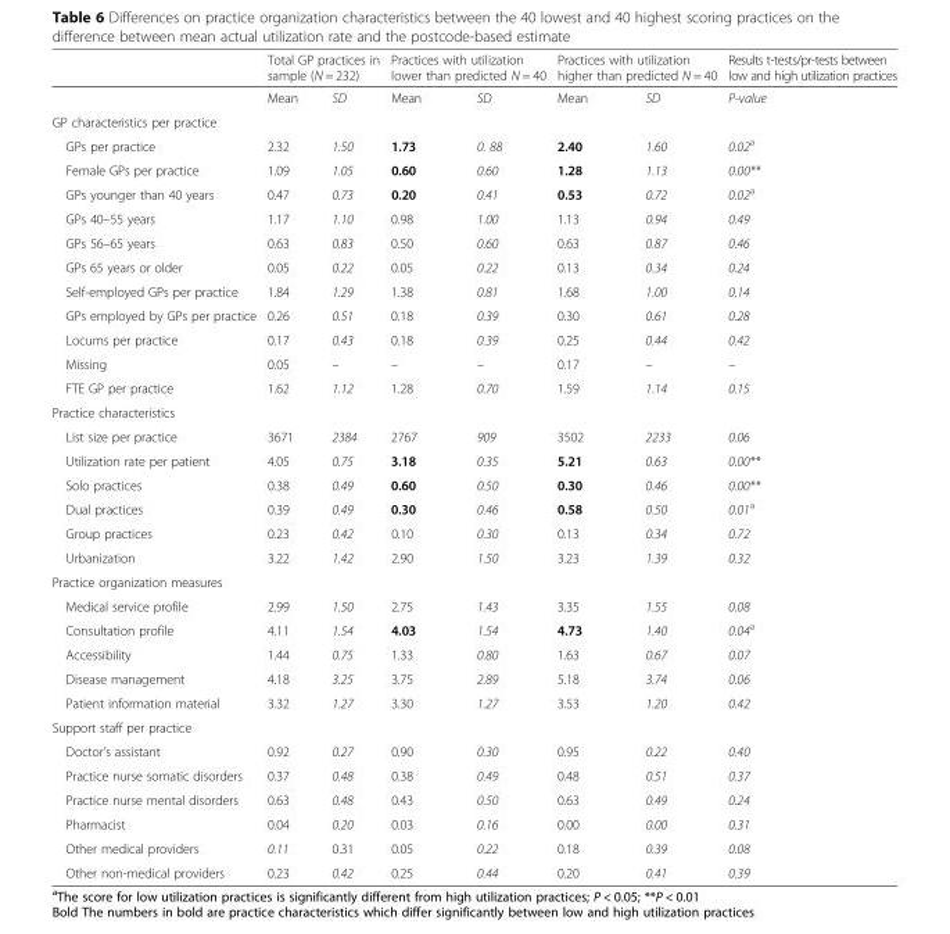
<table><thead><tr><td rowspan="2"></td><td colspan="2">Total GP practices in sample (N = 232)</td><td colspan="2">Practices with utilization lower than predicted N = 40</td><td colspan="2">Practices with utilization higher than predicted N = 40</td><td rowspan="2">Results t-tests/pr-tests between low and high utilization practices P-value</td></tr><tr><td>Mean</td><td>SD</td><td>Mean</td><td>SD</td><td>Mean</td><td>SD</td></tr></thead><tbody><tr><td colspan="8">GP characteristics per practice</td></tr><tr><td>GPs per practice</td><td>2.32</td><td>1.50</td><td>1.73</td><td>0. 88</td><td>2.40</td><td>1.60</td><td>0.02<sup>a</sup></td></tr><tr><td>Female GPs per practice</td><td>1.09</td><td>1.05</td><td>0.60</td><td>0.60</td><td>1.28</td><td>1.13</td><td>0.00**</td></tr><tr><td>GPs younger than 40 years</td><td>0.47</td><td>0.73</td><td>0.20</td><td>0.41</td><td>0.53</td><td>0.72</td><td>0.02<sup>a</sup></td></tr><tr><td>GPs 40–55 years</td><td>1.17</td><td>1.10</td><td>0.98</td><td>1.00</td><td>1.13</td><td>0.94</td><td>0.49</td></tr><tr><td>GPs 56–65 years</td><td>0.63</td><td>0.83</td><td>0.50</td><td>0.60</td><td>0.63</td><td>0.87</td><td>0.46</td></tr><tr><td>GPs 65 years or older</td><td>0.05</td><td>0.22</td><td>0.05</td><td>0.22</td><td>0.13</td><td>0.34</td><td>0.24</td></tr><tr><td>Self-employed GPs per practice</td><td>1.84</td><td>1.29</td><td>1.38</td><td>0.81</td><td>1.68</td><td>1.00</td><td>0.14</td></tr><tr><td>GPs employed by GPs per practice</td><td>0.26</td><td>0.51</td><td>0.18</td><td>0.39</td><td>0.30</td><td>0.61</td><td>0.28</td></tr><tr><td>Locums per practice</td><td>0.17</td><td>0.43</td><td>0.18</td><td>0.39</td><td>0.25</td><td>0.44</td><td>0.42</td></tr><tr><td>Missing</td><td>0.05</td><td>–</td><td>–</td><td>–</td><td>0.17</td><td>–</td><td>–</td></tr><tr><td>FTE GP per practice</td><td>1.62</td><td>1.12</td><td>1.28</td><td>0.70</td><td>1.59</td><td>1.14</td><td>0.15</td></tr><tr><td colspan="8">Practice characteristics</td></tr><tr><td>List size per practice</td><td>3671</td><td>2384</td><td>2767</td><td>909</td><td>3502</td><td>2233</td><td>0.06</td></tr><tr><td>Utilization rate per patient</td><td>4.05</td><td>0.75</td><td>3.18</td><td>0.35</td><td>5.21</td><td>0.63</td><td>0.00**</td></tr><tr><td>Solo practices</td><td>0.38</td><td>0.49</td><td>0.60</td><td>0.50</td><td>0.30</td><td>0.46</td><td>0.00**</td></tr><tr><td>Dual practices</td><td>0.39</td><td>0.49</td><td>0.30</td><td>0.46</td><td>0.58</td><td>0.50</td><td>0.01<sup>a</sup></td></tr><tr><td>Group practices</td><td>0.23</td><td>0.42</td><td>0.10</td><td>0.30</td><td>0.13</td><td>0.34</td><td>0.72</td></tr><tr><td>Urbanization</td><td>3.22</td><td>1.42</td><td>2.90</td><td>1.50</td><td>3.23</td><td>1.39</td><td>0.32</td></tr><tr><td colspan="8">Practice organization measures</td></tr><tr><td>Medical service profile</td><td>2.99</td><td>1.50</td><td>2.75</td><td>1.43</td><td>3.35</td><td>1.55</td><td>0.08</td></tr><tr><td>Consultation profile</td><td>4.11</td><td>1.54</td><td>4.03</td><td>1.54</td><td>4.73</td><td>1.40</td><td>0.04<sup>a</sup></td></tr><tr><td>Accessibility</td><td>1.44</td><td>0.75</td><td>1.33</td><td>0.80</td><td>1.63</td><td>0.67</td><td>0.07</td></tr><tr><td>Disease management</td><td>4.18</td><td>3.25</td><td>3.75</td><td>2.89</td><td>5.18</td><td>3.74</td><td>0.06</td></tr><tr><td>Patient information material</td><td>3.32</td><td>1.27</td><td>3.30</td><td>1.27</td><td>3.53</td><td>1.20</td><td>0.42</td></tr><tr><td colspan="8">Support staff per practice</td></tr><tr><td>Doctor’s assistant</td><td>0.92</td><td>0.27</td><td>0.90</td><td>0.30</td><td>0.95</td><td>0.22</td><td>0.40</td></tr><tr><td>Practice nurse somatic disorders</td><td>0.37</td><td>0.48</td><td>0.38</td><td>0.49</td><td>0.48</td><td>0.51</td><td>0.37</td></tr><tr><td>Practice nurse mental disorders</td><td>0.63</td><td>0.48</td><td>0.43</td><td>0.50</td><td>0.63</td><td>0.49</td><td>0.24</td></tr><tr><td>Pharmacist</td><td>0.04</td><td>0.20</td><td>0.03</td><td>0.16</td><td>0.00</td><td>0.00</td><td>0.31</td></tr><tr><td>Other medical providers</td><td>0.11</td><td>0.31</td><td>0.05</td><td>0.22</td><td>0.18</td><td>0.39</td><td>0.08</td></tr><tr><td>Other non-medical providers</td><td>0.23</td><td>0.42</td><td>0.25</td><td>0.44</td><td>0.20</td><td>0.41</td><td>0.39</td></tr></tbody></table>